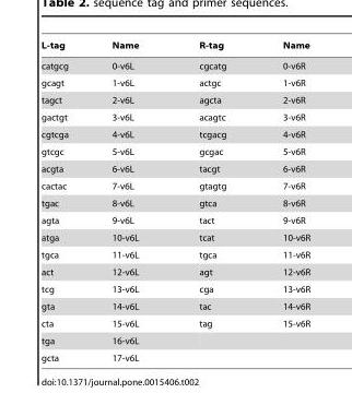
<table><thead><tr><td>L-tag</td><td>Name</td><td>R-tag</td><td>Name</td></tr></thead><tbody><tr><td>catgcg</td><td>0-v6L</td><td>cgcatg</td><td>0-v6R</td></tr><tr><td>gcagt</td><td>1-v6L</td><td>actgc</td><td>1-v6R</td></tr><tr><td>tagct</td><td>2-v6L</td><td>agcta</td><td>2-v6R</td></tr><tr><td>gactgt</td><td>3-v6L</td><td>acagtc</td><td>3-v6R</td></tr><tr><td>cgtcga</td><td>4-v6L</td><td>tcgacg</td><td>4-v6R</td></tr><tr><td>gtcgc</td><td>5-v6L</td><td>gcgac</td><td>5-v6R</td></tr><tr><td>acgta</td><td>6-v6L</td><td>tacgt</td><td>6-v6R</td></tr><tr><td>cactac</td><td>7-v6L</td><td>gtagtg</td><td>7-v6R</td></tr><tr><td>tgac</td><td>8-v6L</td><td>gtca</td><td>8-v6R</td></tr><tr><td>agta</td><td>9-v6L</td><td>tact</td><td>9-v6R</td></tr><tr><td>atga</td><td>10-v6L</td><td>tcat</td><td>10-v6R</td></tr><tr><td>tgca</td><td>11-v6L</td><td>tgca</td><td>11-v6R</td></tr><tr><td>act</td><td>12-v6L</td><td>agt</td><td>12-v6R</td></tr><tr><td>tcg</td><td>13-v6L</td><td>cga</td><td>13-v6R</td></tr><tr><td>gta</td><td>14-v6L</td><td>tac</td><td>14-v6R</td></tr><tr><td>cta</td><td>15-v6L</td><td>tag</td><td>15-v6R</td></tr><tr><td>tga</td><td>16-v6L</td><td></td><td></td></tr><tr><td>gcta</td><td>17-v6L</td><td></td><td></td></tr></tbody></table>